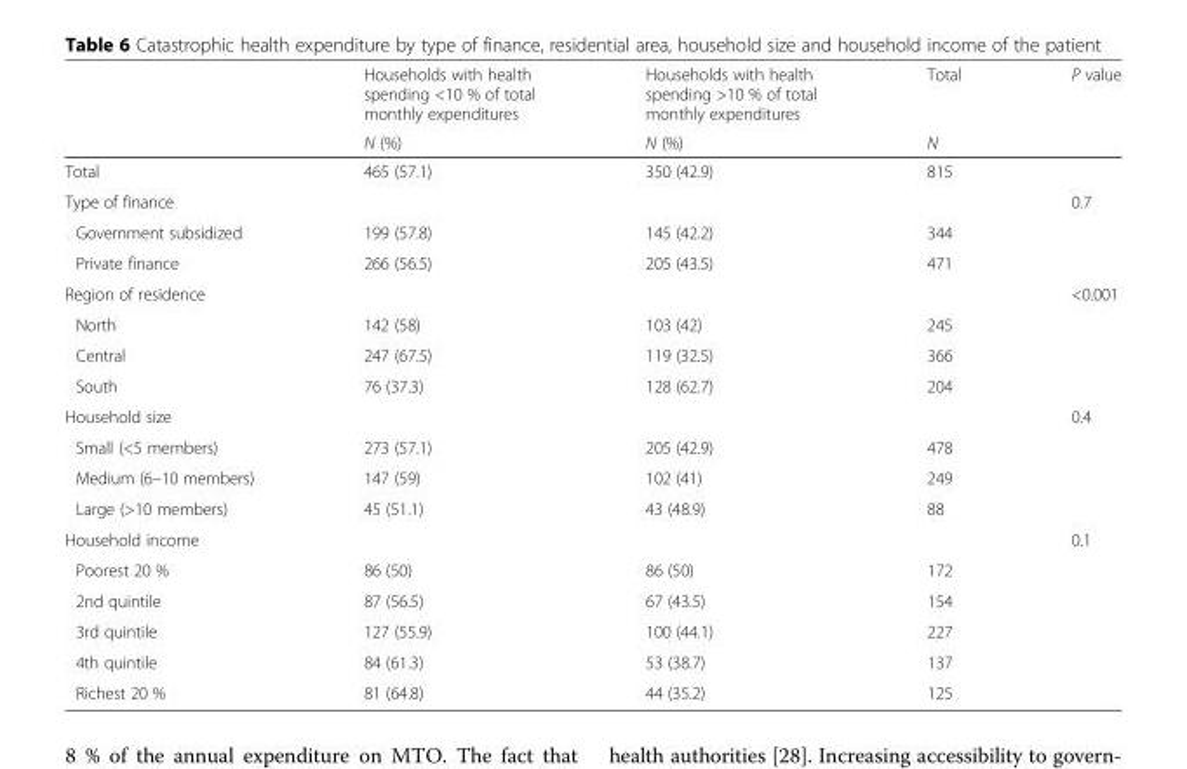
<table><thead><tr><td rowspan="2"></td><td rowspan="2">Households with health spending &lt;10 % of total monthly expenditures N (%)</td><td rowspan="2">Households with health spending &gt;10 % of total monthly expenditures N (%)</td><td rowspan="2">Total N</td><td rowspan="2">P value</td></tr><tr></tr></thead><tbody><tr><td>Total</td><td>465 (57.1)</td><td>350 (42.9)</td><td>815</td><td></td></tr><tr><td>Type of finance</td><td></td><td></td><td></td><td>0.7</td></tr><tr><td>Government subsidized</td><td>199 (57.8)</td><td>145 (42.2)</td><td>344</td><td></td></tr><tr><td>Private finance</td><td>266 (56.5)</td><td>205 (43.5)</td><td>471</td><td></td></tr><tr><td>Region of residence</td><td></td><td></td><td></td><td>&lt;0.001</td></tr><tr><td>North</td><td>142 (58)</td><td>103 (42)</td><td>245</td><td></td></tr><tr><td>Central</td><td>247 (67.5)</td><td>119 (32.5)</td><td>366</td><td></td></tr><tr><td>South</td><td>76 (37.3)</td><td>128 (62.7)</td><td>204</td><td></td></tr><tr><td>Household size</td><td></td><td></td><td></td><td>0.4</td></tr><tr><td>Small (&lt;5 members)</td><td>273 (57.1)</td><td>205 (42.9)</td><td>478</td><td></td></tr><tr><td>Medium (6–10 members)</td><td>147 (59)</td><td>102 (41)</td><td>249</td><td></td></tr><tr><td>Large (&gt;10 members)</td><td>45 (51.1)</td><td>43 (48.9)</td><td>88</td><td></td></tr><tr><td>Household income</td><td></td><td></td><td></td><td>0.1</td></tr><tr><td>Poorest 20 %</td><td>86 (50)</td><td>86 (50)</td><td>172</td><td></td></tr><tr><td>2nd quintile</td><td>87 (56.5)</td><td>67 (43.5)</td><td>154</td><td></td></tr><tr><td>3rd quintile</td><td>127 (55.9)</td><td>100 (44.1)</td><td>227</td><td></td></tr><tr><td>4th quintile</td><td>84 (61.3)</td><td>53 (38.7)</td><td>137</td><td></td></tr><tr><td>Richest 20 %</td><td>81 (64.8)</td><td>44 (35.2)</td><td>125</td><td></td></tr></tbody></table>